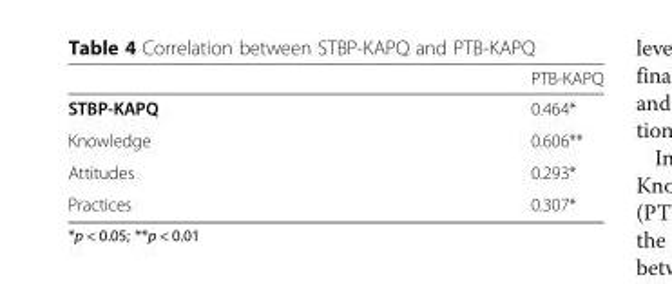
<table><thead><tr><td></td><td>PTB-KAPQ</td></tr></thead><tbody><tr><td>STBP-KAPQ</td><td>0.464*</td></tr><tr><td>Knowledge</td><td>0.606**</td></tr><tr><td>Attitudes</td><td>0.293*</td></tr><tr><td>Practices</td><td>0.307*</td></tr></tbody></table>